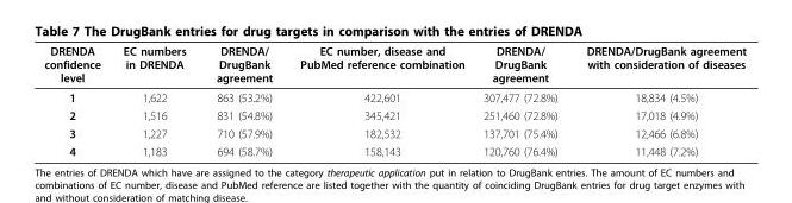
<table><thead><tr><td>DRENDA confidence level</td><td>EC numbers in DRENDA</td><td>DRENDA/ DrugBank agreement</td><td>EC number, disease and PubMed reference combination</td><td>DRENDA/ DrugBank agreement</td><td>DRENDA/DrugBank agreement with consideration of diseases</td></tr></thead><tbody><tr><td>1</td><td>1,622</td><td>863 (53.2%)</td><td>422,601</td><td>307,477 (72.8%)</td><td>18,834 (4.5%)</td></tr><tr><td>2</td><td>1,516</td><td>831 (54.8%)</td><td>345,421</td><td>251,460 (72.8%)</td><td>17,018 (4.9%)</td></tr><tr><td>3</td><td>1,227</td><td>710 (57.9%)</td><td>182,532</td><td>137,701 (75.4%)</td><td>12,466 (6.8%)</td></tr><tr><td>4</td><td>1,183</td><td>694 (58.7%)</td><td>158,143</td><td>120,760 (76.4%)</td><td>11,448 (7.2%)</td></tr></tbody></table>